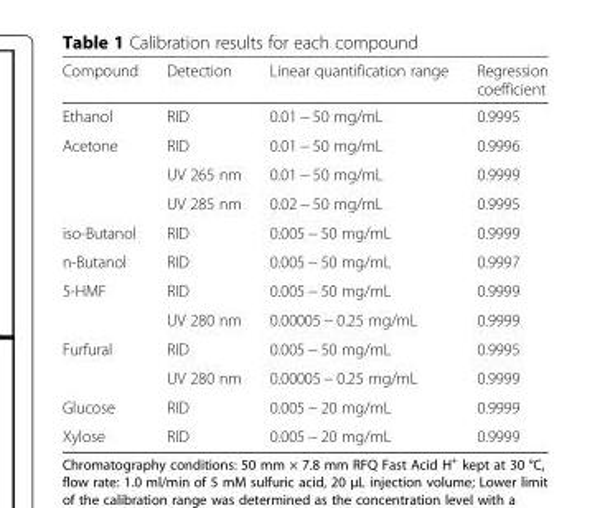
<table><thead><tr><td>Compound</td><td>Detection</td><td>Linear quantification range</td><td>Regression coefficient</td></tr></thead><tbody><tr><td>Ethanol</td><td>RID</td><td>0.01 − 50 mg/mL</td><td>0.9995</td></tr><tr><td rowspan="3">Acetone</td><td>RID</td><td>0.01 − 50 mg/mL</td><td>0.9996</td></tr><tr><td>UV 265 nm</td><td>0.01 − 50 mg/mL</td><td>0.9999</td></tr><tr><td>UV 285 nm</td><td>0.02 − 50 mg/mL</td><td>0.9995</td></tr><tr><td>iso-Butanol</td><td>RID</td><td>0.005 − 50 mg/mL</td><td>0.9999</td></tr><tr><td>n-Butanol</td><td>RID</td><td>0.005 − 50 mg/mL</td><td>0.9997</td></tr><tr><td rowspan="2">5-HMF</td><td>RID</td><td>0.005 − 50 mg/mL</td><td>0.9999</td></tr><tr><td>UV 280 nm</td><td>0.00005 − 0.25 mg/mL</td><td>0.9999</td></tr><tr><td rowspan="2">Furfural</td><td>RID</td><td>0.005 − 50 mg/mL</td><td>0.9995</td></tr><tr><td>UV 280 nm</td><td>0.00005 − 0.25 mg/mL</td><td>0.9999</td></tr><tr><td>Glucose</td><td>RID</td><td>0.005 − 20 mg/mL</td><td>0.9999</td></tr><tr><td>Xylose</td><td>RID</td><td>0.005 − 20 mg/mL</td><td>0.9999</td></tr></tbody></table>